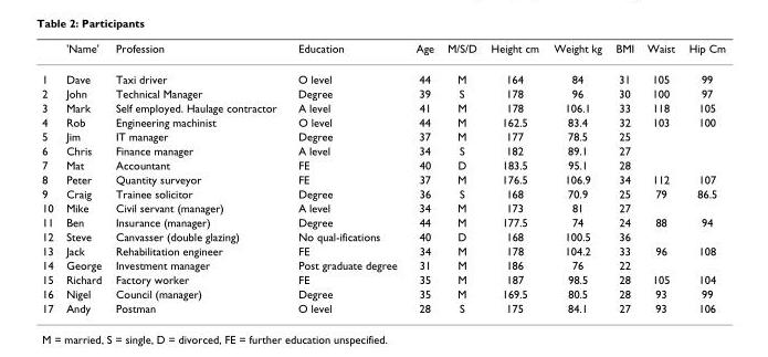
<table><thead><tr><td></td><td>&#x27;Name&#x27;</td><td>Profession</td><td>Education</td><td>Age</td><td>M/S/D</td><td>Height cm</td><td>Weight kg</td><td>BMI</td><td>Waist</td><td>Hip Cm</td></tr></thead><tbody><tr><td>1</td><td>Dave</td><td>Taxi driver</td><td>O level</td><td>44</td><td>M</td><td>164</td><td>84</td><td>31</td><td>105</td><td>99</td></tr><tr><td>2</td><td>John</td><td>Technical Manager</td><td>Degree</td><td>39</td><td>S</td><td>178</td><td>96</td><td>30</td><td>100</td><td>97</td></tr><tr><td>3</td><td>Mark</td><td>Self employed. Haulage contractor</td><td>A level</td><td>41</td><td>M</td><td>178</td><td>106.1</td><td>33</td><td>118</td><td>105</td></tr><tr><td>4</td><td>Rob</td><td>Engineering machinist</td><td>O level</td><td>44</td><td>M</td><td>162.5</td><td>83.4</td><td>32</td><td>103</td><td>100</td></tr><tr><td>5</td><td>Jim</td><td>IT manager</td><td>Degree</td><td>37</td><td>M</td><td>177</td><td>78.5</td><td>25</td><td></td><td></td></tr><tr><td>6</td><td>Chris</td><td>Finance manager</td><td>A level</td><td>34</td><td>S</td><td>182</td><td>89.1</td><td>27</td><td></td><td></td></tr><tr><td>7</td><td>Mat</td><td>Accountant</td><td>FE</td><td>40</td><td>D</td><td>183.5</td><td>95.1</td><td>28</td><td></td><td></td></tr><tr><td>8</td><td>Peter</td><td>Quantity surveyor</td><td>FE</td><td>37</td><td>M</td><td>176.5</td><td>106.9</td><td>34</td><td>112</td><td>107</td></tr><tr><td>9</td><td>Craig</td><td>Trainee solicitor</td><td>Degree</td><td>36</td><td>S</td><td>168</td><td>70.9</td><td>25</td><td>79</td><td>86.5</td></tr><tr><td>10</td><td>Mike</td><td>Civil servant (manager)</td><td>A level</td><td>34</td><td>M</td><td>173</td><td>81</td><td>27</td><td></td><td></td></tr><tr><td>11</td><td>Ben</td><td>Insurance (manager)</td><td>Degree</td><td>44</td><td>M</td><td>177.5</td><td>74</td><td>24</td><td>88</td><td>94</td></tr><tr><td>12</td><td>Steve</td><td>Canvasser (double glazing)</td><td>No qual-ifications</td><td>40</td><td>D</td><td>168</td><td>100.5</td><td>36</td><td></td><td></td></tr><tr><td>13</td><td>Jack</td><td>Rehabilitation engineer</td><td>FE</td><td>34</td><td>M</td><td>178</td><td>104.2</td><td>33</td><td>96</td><td>108</td></tr><tr><td>14</td><td>George</td><td>Investment manager</td><td>Post graduate degree</td><td>31</td><td>M</td><td>186</td><td>76</td><td>22</td><td></td><td></td></tr><tr><td>15</td><td>Richard</td><td>Factory worker</td><td>FE</td><td>35</td><td>M</td><td>187</td><td>98.5</td><td>28</td><td>105</td><td>104</td></tr><tr><td>16</td><td>Nigel</td><td>Council (manager)</td><td>Degree</td><td>35</td><td>M</td><td>169.5</td><td>80.5</td><td>28</td><td>93</td><td>99</td></tr><tr><td>17</td><td>Andy</td><td>Postman</td><td>O level</td><td>28</td><td>S</td><td>175</td><td>84.1</td><td>27</td><td>93</td><td>106</td></tr></tbody></table>